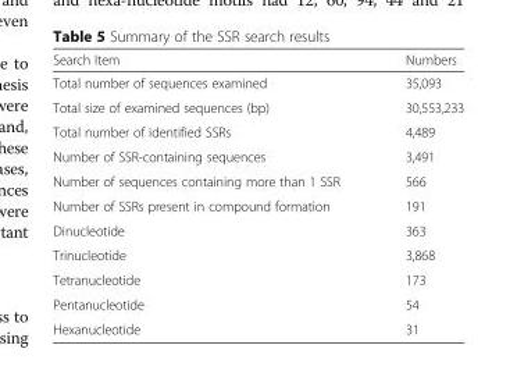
<table><thead><tr><td>Search Item</td><td>Numbers</td></tr></thead><tbody><tr><td>Total number of sequences examined</td><td>35,093</td></tr><tr><td>Total size of examined sequences (bp)</td><td>30,553,233</td></tr><tr><td>Total number of identified SSRs</td><td>4,489</td></tr><tr><td>Number of SSR-containing sequences</td><td>3,491</td></tr><tr><td>Number of sequences containing more than 1 SSR</td><td>566</td></tr><tr><td>Number of SSRs present in compound formation</td><td>191</td></tr><tr><td>Dinucleotide</td><td>363</td></tr><tr><td>Trinucleotide</td><td>3,868</td></tr><tr><td>Tetranucleotide</td><td>173</td></tr><tr><td>Pentanucleotide</td><td>54</td></tr><tr><td>Hexanucleotide</td><td>31</td></tr></tbody></table>